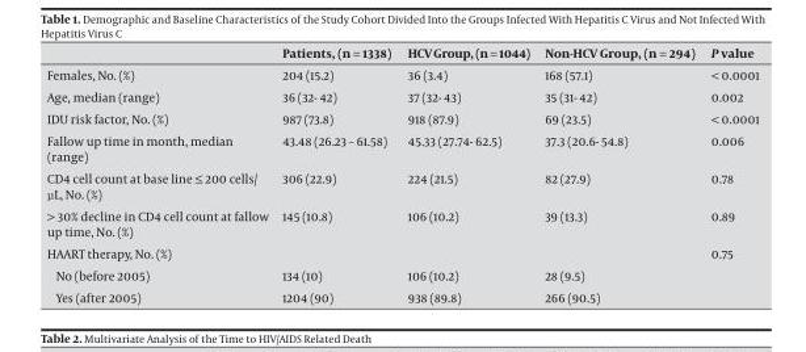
<table><thead><tr><td></td><td>Patients, (n = 1338)</td><td>HCV Group, (n = 1044)</td><td>Non-HCV Group, (n = 294)</td><td>P value</td></tr></thead><tbody><tr><td>Females, No. (%)</td><td>204 (15.2)</td><td>36 (3.4)</td><td>168 (57.1)</td><td>&lt; 0.0001</td></tr><tr><td>Age, median (range)</td><td>36 (32- 42)</td><td>37 (32- 43)</td><td>35 (31- 42)</td><td>0.002</td></tr><tr><td>IDU risk factor, No. (%)</td><td>987 (73.8)</td><td>918 (87.9)</td><td>69 (23.5)</td><td>&lt; 0.0001</td></tr><tr><td>Fallow up time in month, median (range)</td><td>43.48 (26.23 – 61.58)</td><td>45.33 (27.74- 62.5)</td><td>37.3 (20.6- 54.8)</td><td>0.006</td></tr><tr><td>CD4 cell count at base line ≤ 200 cells/ μL, No. (%)</td><td>306 (22.9)</td><td>224 (21.5)</td><td>82 (27.9)</td><td>0.78</td></tr><tr><td>&gt; 30% decline in CD4 cell count at fallow up time, No. (%)</td><td>145 (10.8)</td><td>106 (10.2)</td><td>39 (13.3)</td><td>0.89</td></tr><tr><td>HAART therapy, No. (%)</td><td></td><td></td><td></td><td>0.75</td></tr><tr><td>No (before 2005)</td><td>134 (10)</td><td>106 (10.2)</td><td>28 (9.5)</td><td></td></tr><tr><td>Yes (after 2005)</td><td>1204 (90)</td><td>938 (89.8)</td><td>266 (90.5)</td><td></td></tr></tbody></table>